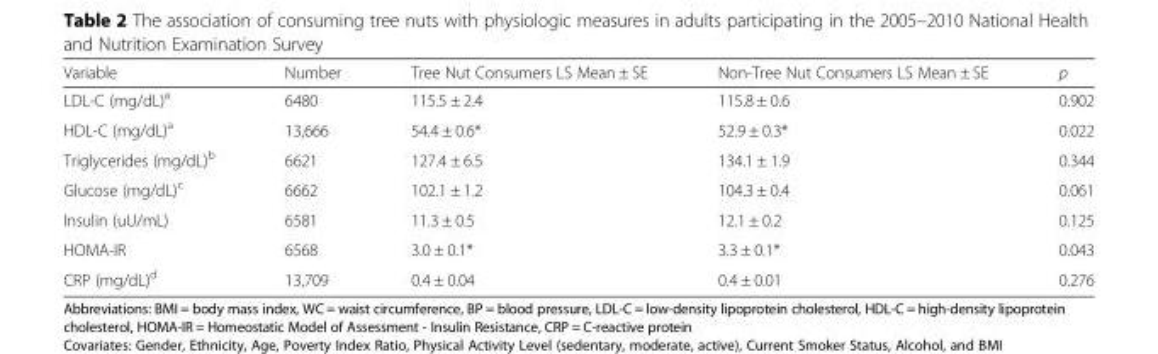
<table><thead><tr><td>Variable</td><td>Number</td><td>Tree Nut Consumers LS Mean ± SE</td><td>Non-Tree Nut Consumers LS Mean ± SE</td><td>p</td></tr></thead><tbody><tr><td>LDL-C (mg/dL)<sup>a</sup></td><td>6480</td><td>115.5 ± 2.4</td><td>115.8 ± 0.6</td><td>0.902</td></tr><tr><td>HDL-C (mg/dL)<sup>a</sup></td><td>13,666</td><td>54.4 ± 0.6*</td><td>52.9 ± 0.3*</td><td>0.022</td></tr><tr><td>Triglycerides (mg/dL)<sup>b</sup></td><td>6621</td><td>127.4 ± 6.5</td><td>134.1 ± 1.9</td><td>0.344</td></tr><tr><td>Glucose (mg/dL)<sup>c</sup></td><td>6662</td><td>102.1 ± 1.2</td><td>104.3 ± 0.4</td><td>0.061</td></tr><tr><td>Insulin (uU/mL)</td><td>6581</td><td>11.3 ± 0.5</td><td>12.1 ± 0.2</td><td>0.125</td></tr><tr><td>HOMA-IR</td><td>6568</td><td>3.0 ± 0.1*</td><td>3.3 ± 0.1*</td><td>0.043</td></tr><tr><td>CRP (mg/dL)<sup>d</sup></td><td>13,709</td><td>0.4 ± 0.04</td><td>0.4 ± 0.01</td><td>0.276</td></tr></tbody></table>